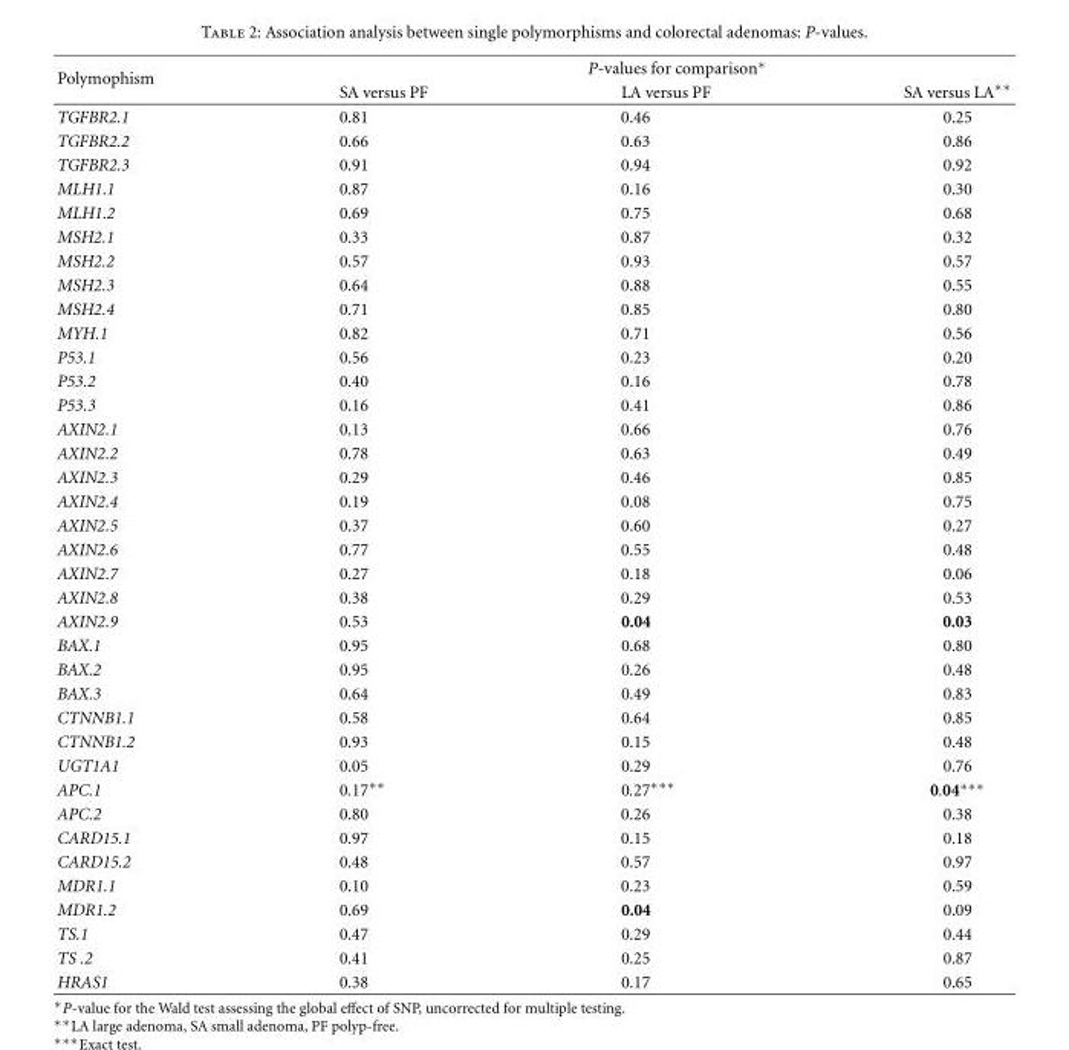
<table><thead><tr><td rowspan="2">Polymophism</td><td colspan="3">P-values for comparison∗</td></tr><tr><td>SA versus PF</td><td>LA versus PF</td><td>SA versus LA∗∗</td></tr></thead><tbody><tr><td>TGFBR2.1</td><td>0.81</td><td>0.46</td><td>0.25</td></tr><tr><td>TGFBR2.2</td><td>0.66</td><td>0.63</td><td>0.86</td></tr><tr><td>TGFBR2.3</td><td>0.91</td><td>0.94</td><td>0.92</td></tr><tr><td>MLH1.1</td><td>0.87</td><td>0.16</td><td>0.30</td></tr><tr><td>MLH1.2</td><td>0.69</td><td>0.75</td><td>0.68</td></tr><tr><td>MSH2.1</td><td>0.33</td><td>0.87</td><td>0.32</td></tr><tr><td>MSH2.2</td><td>0.57</td><td>0.93</td><td>0.57</td></tr><tr><td>MSH2.3</td><td>0.64</td><td>0.88</td><td>0.55</td></tr><tr><td>MSH2.4</td><td>0.71</td><td>0.85</td><td>0.80</td></tr><tr><td>MYH.1</td><td>0.82</td><td>0.71</td><td>0.56</td></tr><tr><td>P53.1</td><td>0.56</td><td>0.23</td><td>0.20</td></tr><tr><td>P53.2</td><td>0.40</td><td>0.16</td><td>0.78</td></tr><tr><td>P53.3</td><td>0.16</td><td>0.41</td><td>0.86</td></tr><tr><td>AXIN2.1</td><td>0.13</td><td>0.66</td><td>0.76</td></tr><tr><td>AXIN2.2</td><td>0.78</td><td>0.63</td><td>0.49</td></tr><tr><td>AXIN2.3</td><td>0.29</td><td>0.46</td><td>0.85</td></tr><tr><td>AXIN2.4</td><td>0.19</td><td>0.08</td><td>0.75</td></tr><tr><td>AXIN2.5</td><td>0.37</td><td>0.60</td><td>0.27</td></tr><tr><td>AXIN2.6</td><td>0.77</td><td>0.55</td><td>0.48</td></tr><tr><td>AXIN2.7</td><td>0.27</td><td>0.18</td><td>0.06</td></tr><tr><td>AXIN2.8</td><td>0.38</td><td>0.29</td><td>0.53</td></tr><tr><td>AXIN2.9</td><td>0.53</td><td>0.04</td><td>0.03</td></tr><tr><td>BAX.1</td><td>0.95</td><td>0.68</td><td>0.80</td></tr><tr><td>BAX.2</td><td>0.95</td><td>0.26</td><td>0.48</td></tr><tr><td>BAX.3</td><td>0.64</td><td>0.49</td><td>0.83</td></tr><tr><td>CTNNB1.1</td><td>0.58</td><td>0.64</td><td>0.85</td></tr><tr><td>CTNNB1.2</td><td>0.93</td><td>0.15</td><td>0.48</td></tr><tr><td>UGT1A1</td><td>0.05</td><td>0.29</td><td>0.76</td></tr><tr><td>APC.1</td><td>0.17∗∗</td><td>0.27∗∗∗</td><td>0.04∗∗∗</td></tr><tr><td>APC.2</td><td>0.80</td><td>0.26</td><td>0.38</td></tr><tr><td>CARD15.1</td><td>0.97</td><td>0.15</td><td>0.18</td></tr><tr><td>CARD15.2</td><td>0.48</td><td>0.57</td><td>0.97</td></tr><tr><td>MDR1.1</td><td>0.10</td><td>0.23</td><td>0.59</td></tr><tr><td>MDR1.2</td><td>0.69</td><td>0.04</td><td>0.09</td></tr><tr><td>TS.1</td><td>0.47</td><td>0.29</td><td>0.44</td></tr><tr><td>TS .2</td><td>0.41</td><td>0.25</td><td>0.87</td></tr><tr><td>HRAS1</td><td>0.38</td><td>0.17</td><td>0.65</td></tr></tbody></table>